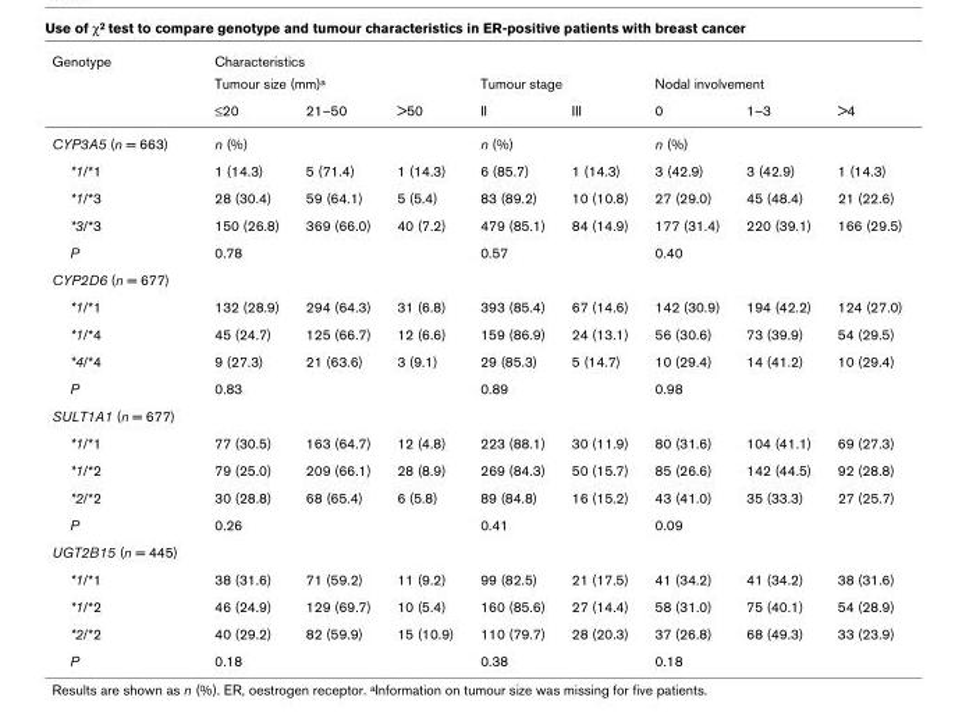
<table><thead><tr><td rowspan="3">Genotype</td><td colspan="8">Characteristics</td></tr><tr><td colspan="3">Tumour size (mm)a</td><td colspan="2">Tumour stage</td><td colspan="3">Nodal involvement</td></tr><tr><td>≤20</td><td>21–50</td><td>&gt;50</td><td>II</td><td>III</td><td>0</td><td>1–3</td><td>&gt;4</td></tr></thead><tbody><tr><td>CYP3A5 (n = 663)</td><td>n (%)</td><td></td><td></td><td>n (%)</td><td></td><td>n (%)</td><td></td><td></td></tr><tr><td>*1/*1</td><td>1 (14.3)</td><td>5 (71.4)</td><td>1 (14.3)</td><td>6 (85.7)</td><td>1 (14.3)</td><td>3 (42.9)</td><td>3 (42.9)</td><td>1 (14.3)</td></tr><tr><td>*1/*3</td><td>28 (30.4)</td><td>59 (64.1)</td><td>5 (5.4)</td><td>83 (89.2)</td><td>10 (10.8)</td><td>27 (29.0)</td><td>45 (48.4)</td><td>21 (22.6)</td></tr><tr><td>*3/*3</td><td>150 (26.8)</td><td>369 (66.0)</td><td>40 (7.2)</td><td>479 (85.1)</td><td>84 (14.9)</td><td>177 (31.4)</td><td>220 (39.1)</td><td>166 (29.5)</td></tr><tr><td>P</td><td>0.78</td><td></td><td></td><td>0.57</td><td></td><td>0.40</td><td></td><td></td></tr><tr><td colspan="9">CYP2D6 (n = 677)</td></tr><tr><td>*1/*1</td><td>132 (28.9)</td><td>294 (64.3)</td><td>31 (6.8)</td><td>393 (85.4)</td><td>67 (14.6)</td><td>142 (30.9)</td><td>194 (42.2)</td><td>124 (27.0)</td></tr><tr><td>*1/*4</td><td>45 (24.7)</td><td>125 (66.7)</td><td>12 (6.6)</td><td>159 (86.9)</td><td>24 (13.1)</td><td>56 (30.6)</td><td>73 (39.9)</td><td>54 (29.5)</td></tr><tr><td>*4/*4</td><td>9 (27.3)</td><td>21 (63.6)</td><td>3 (9.1)</td><td>29 (85.3)</td><td>5 (14.7)</td><td>10 (29.4)</td><td>14 (41.2)</td><td>10 (29.4)</td></tr><tr><td>P</td><td>0.83</td><td></td><td></td><td>0.89</td><td></td><td>0.98</td><td></td><td></td></tr><tr><td colspan="9">SULT1A1 (n = 677)</td></tr><tr><td>*1/*1</td><td>77 (30.5)</td><td>163 (64.7)</td><td>12 (4.8)</td><td>223 (88.1)</td><td>30 (11.9)</td><td>80 (31.6)</td><td>104 (41.1)</td><td>69 (27.3)</td></tr><tr><td>*1/*2</td><td>79 (25.0)</td><td>209 (66.1)</td><td>28 (8.9)</td><td>269 (84.3)</td><td>50 (15.7)</td><td>85 (26.6)</td><td>142 (44.5)</td><td>92 (28.8)</td></tr><tr><td>*2/*2</td><td>30 (28.8)</td><td>68 (65.4)</td><td>6 (5.8)</td><td>89 (84.8)</td><td>16 (15.2)</td><td>43 (41.0)</td><td>35 (33.3)</td><td>27 (25.7)</td></tr><tr><td>P</td><td>0.26</td><td></td><td></td><td>0.41</td><td></td><td>0.09</td><td></td><td></td></tr><tr><td colspan="9">UGT2B15 (n = 445)</td></tr><tr><td>*1/*1</td><td>38 (31.6)</td><td>71 (59.2)</td><td>11 (9.2)</td><td>99 (82.5)</td><td>21 (17.5)</td><td>41 (34.2)</td><td>41 (34.2)</td><td>38 (31.6)</td></tr><tr><td>*1/*2</td><td>46 (24.9)</td><td>129 (69.7)</td><td>10 (5.4)</td><td>160 (85.6)</td><td>27 (14.4)</td><td>58 (31.0)</td><td>75 (40.1)</td><td>54 (28.9)</td></tr><tr><td>*2/*2</td><td>40 (29.2)</td><td>82 (59.9)</td><td>15 (10.9)</td><td>110 (79.7)</td><td>28 (20.3)</td><td>37 (26.8)</td><td>68 (49.3)</td><td>33 (23.9)</td></tr><tr><td>P</td><td>0.18</td><td></td><td></td><td>0.38</td><td></td><td>0.18</td><td></td><td></td></tr></tbody></table>